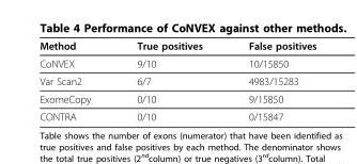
<table><thead><tr><td>Method</td><td>True positives</td><td>False positives</td></tr></thead><tbody><tr><td>CoNVEX</td><td>9/10</td><td>10/15850</td></tr><tr><td>Var Scan2</td><td>6/7</td><td>4983/15283</td></tr><tr><td>ExomeCopy</td><td>0/10</td><td>9/15850</td></tr><tr><td>CONTRA</td><td>0/10</td><td>0/15847</td></tr></tbody></table>